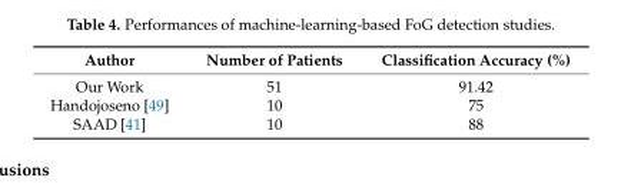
<table><thead><tr><td>Author</td><td>Number of Patients</td><td>Classification Accuracy (%)</td></tr></thead><tbody><tr><td>Our Work</td><td>51</td><td>91.42</td></tr><tr><td>Handojoseno [49]</td><td>10</td><td>75</td></tr><tr><td>SAAD [41]</td><td>10</td><td>88</td></tr></tbody></table>